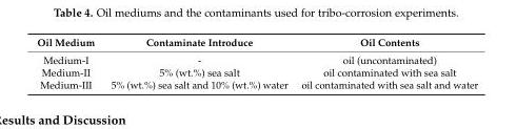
<table><thead><tr><td>Oil Medium</td><td>Contaminate Introduce</td><td>Oil Contents</td></tr></thead><tbody><tr><td>Medium-I</td><td>-</td><td>oil (uncontaminated)</td></tr><tr><td>Medium-II</td><td>5% (wt.%) sea salt</td><td>oil contaminated with sea salt</td></tr><tr><td>Medium-III</td><td>5% (wt.%) sea salt and 10% (wt.%) water</td><td>oil contaminated with sea salt and water</td></tr></tbody></table>